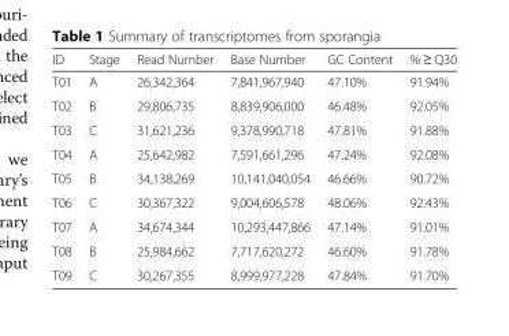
<table><thead><tr><td>ID</td><td>Stage</td><td>Read Number</td><td>Base Number</td><td>GC Content</td><td>% ≥ Q30</td></tr></thead><tbody><tr><td>T01</td><td>A</td><td>26,342,364</td><td>7,841,967,940</td><td>47.10%</td><td>91.94%</td></tr><tr><td>T02</td><td>B</td><td>29,806,735</td><td>8,839,906,000</td><td>46.48%</td><td>92.05%</td></tr><tr><td>T03</td><td>C</td><td>31,621,236</td><td>9,378,990,718</td><td>47.81%</td><td>91.88%</td></tr><tr><td>T04</td><td>A</td><td>25,642,982</td><td>7,591,661,296</td><td>47.24%</td><td>92.08%</td></tr><tr><td>T05</td><td>B</td><td>34,138,269</td><td>10,141,040,054</td><td>46.66%</td><td>90.72%</td></tr><tr><td>T06</td><td>C</td><td>30,367,322</td><td>9,004,606,578</td><td>48.06%</td><td>92.43%</td></tr><tr><td>T07</td><td>A</td><td>34,674,344</td><td>10,293,447,866</td><td>47.14%</td><td>91.01%</td></tr><tr><td>T08</td><td>B</td><td>25,984,662</td><td>7,717,620,272</td><td>46.60%</td><td>91.78%</td></tr><tr><td>T09</td><td>C</td><td>30,267,355</td><td>8,999,977,228</td><td>47.84%</td><td>91.70%</td></tr></tbody></table>